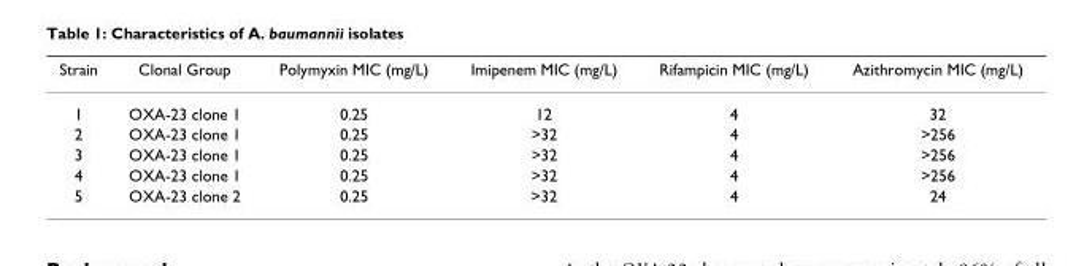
<table><thead><tr><td>Strain</td><td>Clonal Group</td><td>Polymyxin MIC (mg/L)</td><td>Imipenem MIC (mg/L)</td><td>Rifampicin MIC (mg/L)</td><td>Azithromycin MIC (mg/L)</td></tr></thead><tbody><tr><td>1</td><td>OXA-23 clone 1</td><td>0.25</td><td>12</td><td>4</td><td>32</td></tr><tr><td>2</td><td>OXA-23 clone 1</td><td>0.25</td><td>&gt;32</td><td>4</td><td>&gt;256</td></tr><tr><td>3</td><td>OXA-23 clone 1</td><td>0.25</td><td>&gt;32</td><td>4</td><td>&gt;256</td></tr><tr><td>4</td><td>OXA-23 clone 1</td><td>0.25</td><td>&gt;32</td><td>4</td><td>&gt;256</td></tr><tr><td>5</td><td>OXA-23 clone 2</td><td>0.25</td><td>&gt;32</td><td>4</td><td>24</td></tr></tbody></table>